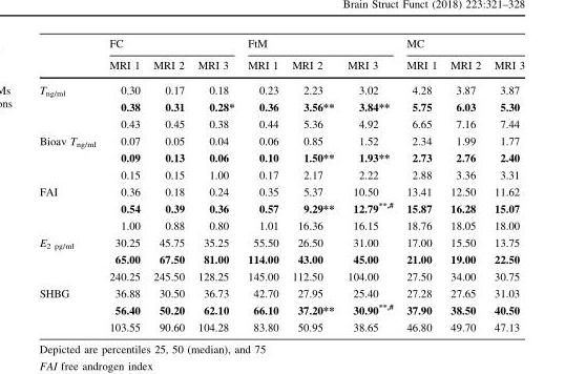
<table><thead><tr><td rowspan="2"></td><td colspan="3">FC</td><td colspan="3">FtM</td><td colspan="3">MC</td></tr><tr><td>MRI 1</td><td>MRI 2</td><td>MRI 3</td><td>MRI 1</td><td>MRI 2</td><td>MRI 3</td><td>MRI 1</td><td>MRI 2</td><td>MRI 3</td></tr></thead><tbody><tr><td rowspan="3">T<sub>ng/ml</sub></td><td>0.30</td><td>0.17</td><td>0.18</td><td>0.23</td><td>2.23</td><td>3.02</td><td>4.28</td><td>3.87</td><td>3.87</td></tr><tr><td>0.38</td><td>0.31</td><td>0.28*</td><td>0.36</td><td>3.56**</td><td>3.84**</td><td>5.75</td><td>6.03</td><td>5.30</td></tr><tr><td>0.43</td><td>0.45</td><td>0.38</td><td>0.44</td><td>5.36</td><td>4.92</td><td>6.65</td><td>7.16</td><td>7.44</td></tr><tr><td rowspan="3">Bioav T<sub>ng/ml</sub></td><td>0.07</td><td>0.05</td><td>0.04</td><td>0.06</td><td>0.85</td><td>1.52</td><td>2.34</td><td>1.99</td><td>1.77</td></tr><tr><td>0.09</td><td>0.13</td><td>0.06</td><td>0.10</td><td>1.50**</td><td>1.93**</td><td>2.73</td><td>2.76</td><td>2.40</td></tr><tr><td>0.15</td><td>0.15</td><td>1.00</td><td>0.17</td><td>2.17</td><td>2.22</td><td>2.88</td><td>3.36</td><td>3.31</td></tr><tr><td rowspan="3">FAI</td><td>0.36</td><td>0.18</td><td>0.24</td><td>0.35</td><td>5.37</td><td>10.50</td><td>13.41</td><td>12.50</td><td>11.62</td></tr><tr><td>0.54</td><td>0.39</td><td>0.36</td><td>0.57</td><td>9.29**</td><td>12.79<sup>**,#</sup></td><td>15.87</td><td>16.28</td><td>15.07</td></tr><tr><td>1.00</td><td>0.88</td><td>0.80</td><td>1.01</td><td>16.36</td><td>16.15</td><td>18.76</td><td>18.05</td><td>18.00</td></tr><tr><td rowspan="3">E<sub>2 pg/ml</sub></td><td>30.25</td><td>45.75</td><td>35.25</td><td>55.50</td><td>26.50</td><td>31.00</td><td>17.00</td><td>15.50</td><td>13.75</td></tr><tr><td>65.00</td><td>67.50</td><td>81.00</td><td>114.00</td><td>43.00</td><td>45.00</td><td>21.00</td><td>19.00</td><td>22.50</td></tr><tr><td>240.25</td><td>245.50</td><td>128.25</td><td>145.00</td><td>112.50</td><td>104.00</td><td>27.50</td><td>34.00</td><td>30.75</td></tr><tr><td rowspan="3">SHBG</td><td>36.88</td><td>30.50</td><td>36.73</td><td>42.70</td><td>27.95</td><td>25.40</td><td>27.28</td><td>27.65</td><td>31.03</td></tr><tr><td>56.40</td><td>50.20</td><td>62.10</td><td>66.10</td><td>37.20**</td><td>30.90<sup>**,#</sup></td><td>37.90</td><td>38.50</td><td>40.50</td></tr><tr><td>103.55</td><td>90.60</td><td>104.28</td><td>83.80</td><td>50.95</td><td>38.65</td><td>46.80</td><td>49.70</td><td>47.13</td></tr></tbody></table>